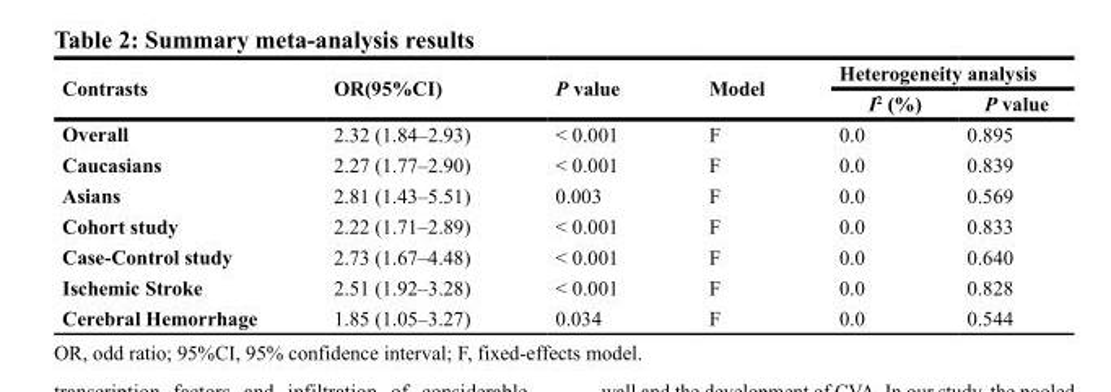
<table><thead><tr><td rowspan="2">Contrasts</td><td rowspan="2">OR(95%CI)</td><td rowspan="2">P value</td><td rowspan="2">Model</td><td colspan="2">Heterogeneity analysis</td></tr><tr><td>I<sup>2</sup> (%)</td><td>P value</td></tr></thead><tbody><tr><td>Overall</td><td>2.32 (1.84–2.93)</td><td>&lt; 0.001</td><td>F</td><td>0.0</td><td>0.895</td></tr><tr><td>Caucasians</td><td>2.27 (1.77–2.90)</td><td>&lt; 0.001</td><td>F</td><td>0.0</td><td>0.839</td></tr><tr><td>Asians</td><td>2.81 (1.43–5.51)</td><td>0.003</td><td>F</td><td>0.0</td><td>0.569</td></tr><tr><td>Cohort study</td><td>2.22 (1.71–2.89)</td><td>&lt; 0.001</td><td>F</td><td>0.0</td><td>0.833</td></tr><tr><td>Case-Control study</td><td>2.73 (1.67–4.48)</td><td>&lt; 0.001</td><td>F</td><td>0.0</td><td>0.640</td></tr><tr><td>Ischemic Stroke</td><td>2.51 (1.92–3.28)</td><td>&lt; 0.001</td><td>F</td><td>0.0</td><td>0.828</td></tr><tr><td>Cerebral Hemorrhage</td><td>1.85 (1.05–3.27)</td><td>0.034</td><td>F</td><td>0.0</td><td>0.544</td></tr></tbody></table>